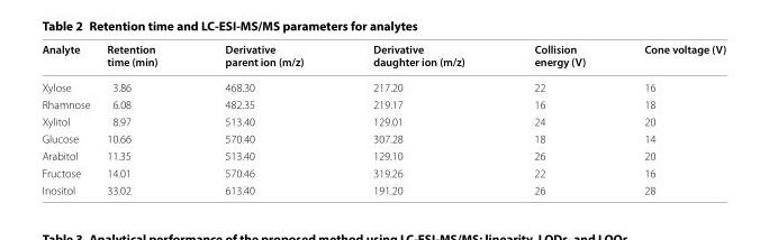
<table><thead><tr><td>Analyte</td><td>Retention time (min)</td><td>Derivative parent ion (m/z)</td><td>Derivative daughter ion (m/z)</td><td>Collision energy (V)</td><td>Cone voltage (V)</td></tr></thead><tbody><tr><td>Xylose</td><td>3.86</td><td>468.30</td><td>217.20</td><td>22</td><td>16</td></tr><tr><td>Rhamnose</td><td>6.08</td><td>482.35</td><td>219.17</td><td>16</td><td>18</td></tr><tr><td>Xylitol</td><td>8.97</td><td>513.40</td><td>129.01</td><td>24</td><td>20</td></tr><tr><td>Glucose</td><td>10.66</td><td>570.40</td><td>307.28</td><td>18</td><td>14</td></tr><tr><td>Arabitol</td><td>11.35</td><td>513.40</td><td>129.10</td><td>26</td><td>20</td></tr><tr><td>Fructose</td><td>14.01</td><td>570.46</td><td>319.26</td><td>22</td><td>16</td></tr><tr><td>Inositol</td><td>33.02</td><td>613.40</td><td>191.20</td><td>26</td><td>28</td></tr></tbody></table>